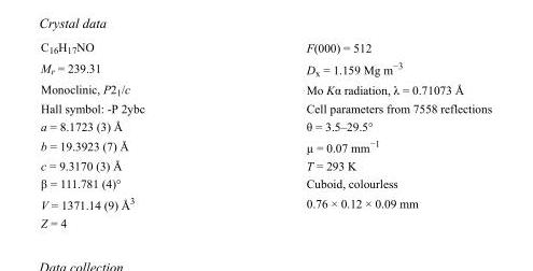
<table><tbody><tr><td>C<sub>16</sub>H<sub>17</sub>NO</td><td>F(000) = 512</td></tr><tr><td>M<sub>r</sub> = 239.31</td><td>D<sub>x</sub> = 1.159 Mg m<sup>−3</sup></td></tr><tr><td>Monoclinic, P2<sub>1</sub>/c</td><td>Mo Kα radiation, λ = 0.71073 Å</td></tr><tr><td>Hall symbol: -P 2ybc</td><td>Cell parameters from 7558 reflections</td></tr><tr><td>a = 8.1723 (3) Å</td><td>θ = 3.5–29.5°</td></tr><tr><td>b = 19.3923 (7) Å</td><td>µ = 0.07 mm<sup>−1</sup></td></tr><tr><td>c = 9.3170 (3) Å</td><td>T = 293 K</td></tr><tr><td>β = 111.781 (4)°</td><td>Cuboid, colourless</td></tr><tr><td>V = 1371.14 (9) Å<sup>3</sup></td><td>0.76 × 0.12 × 0.09 mm</td></tr><tr><td>Z = 4</td><td></td></tr></tbody></table>